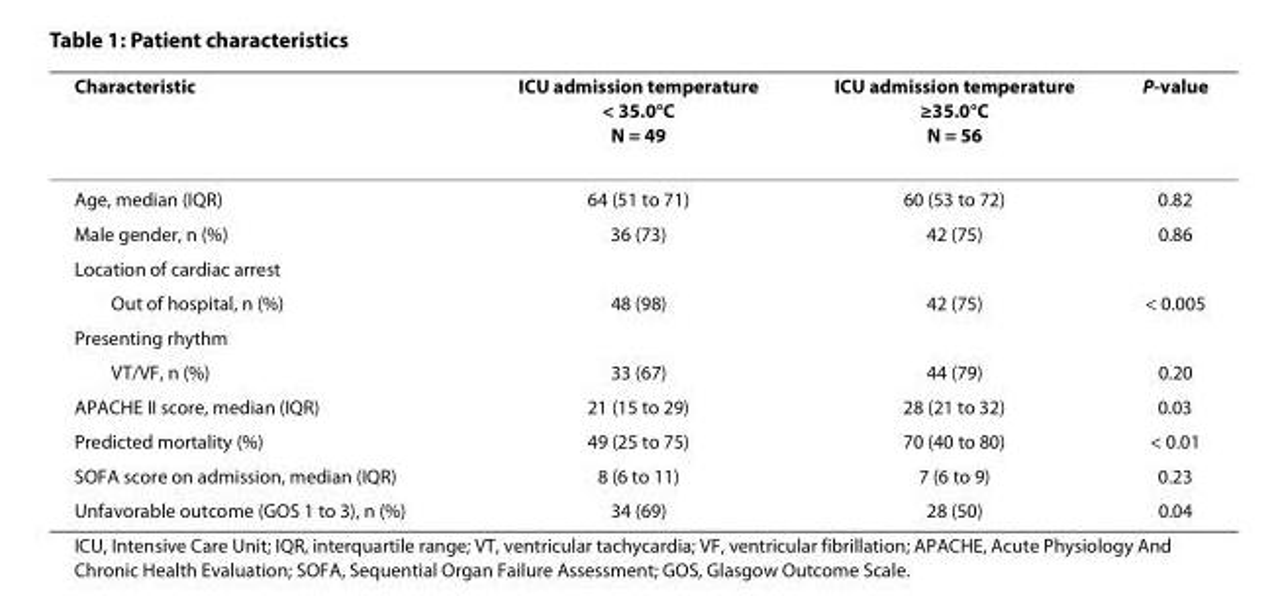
<table><thead><tr><td>Characteristic</td><td>ICU admission temperature &lt; 35.0°C N = 49</td><td>ICU admission temperature ≥35.0°C N = 56</td><td>P-value</td></tr></thead><tbody><tr><td>Age, median (IQR)</td><td>64 (51 to 71)</td><td>60 (53 to 72)</td><td>0.82</td></tr><tr><td>Male gender, n (%)</td><td>36 (73)</td><td>42 (75)</td><td>0.86</td></tr><tr><td colspan="4">Location of cardiac arrest</td></tr><tr><td>Out of hospital, n (%)</td><td>48 (98)</td><td>42 (75)</td><td>&lt; 0.005</td></tr><tr><td colspan="4">Presenting rhythm</td></tr><tr><td>VT/VF, n (%)</td><td>33 (67)</td><td>44 (79)</td><td>0.20</td></tr><tr><td>APACHE II score, median (IQR)</td><td>21 (15 to 29)</td><td>28 (21 to 32)</td><td>0.03</td></tr><tr><td>Predicted mortality (%)</td><td>49 (25 to 75)</td><td>70 (40 to 80)</td><td>&lt; 0.01</td></tr><tr><td>SOFA score on admission, median (IQR)</td><td>8 (6 to 11)</td><td>7 (6 to 9)</td><td>0.23</td></tr><tr><td>Unfavorable outcome (GOS 1 to 3), n (%)</td><td>34 (69)</td><td>28 (50)</td><td>0.04</td></tr></tbody></table>